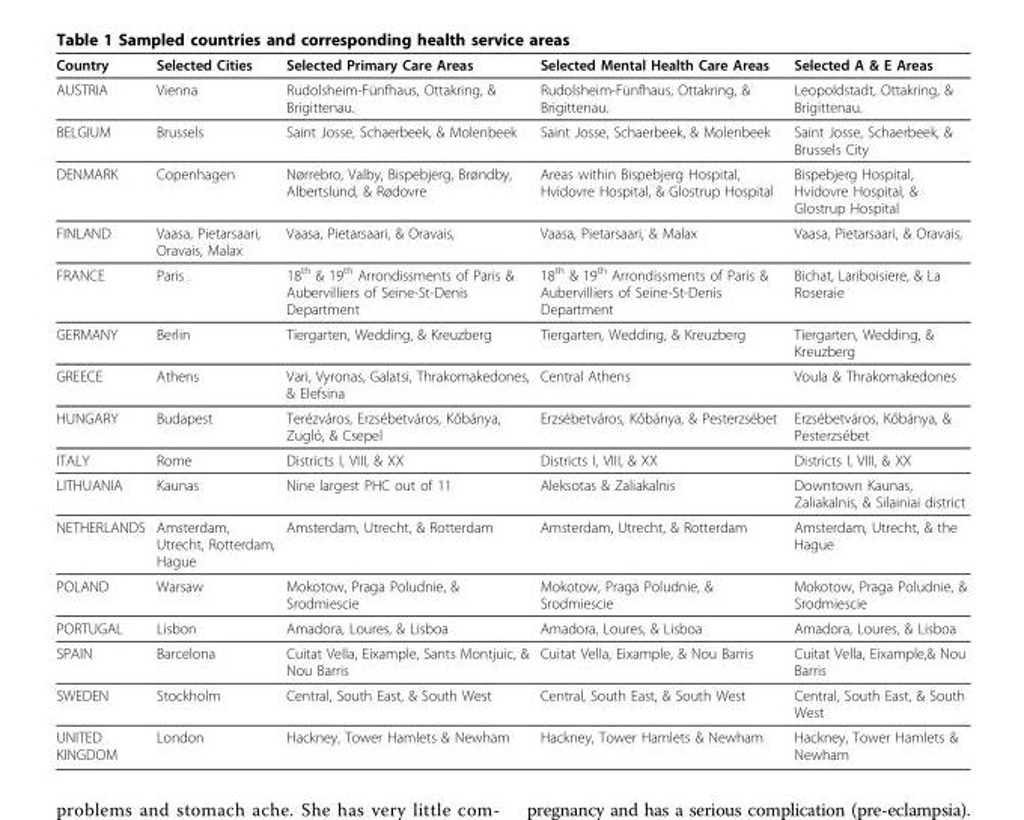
<table><thead><tr><td>Country</td><td>Selected Cities</td><td>Selected Primary Care Areas</td><td>Selected Mental Health Care Areas</td><td>Selected A &amp; E Areas</td></tr></thead><tbody><tr><td>AUSTRIA</td><td>Vienna</td><td>Rudolsheim-Fünfhaus, Ottakring, &amp; Brigittenau.</td><td>Rudolsheim-Fünfhaus, Ottakring, &amp; Brigittenau.</td><td>Leopoldstadt, Ottakring, &amp; Brigittenau.</td></tr><tr><td>BELGIUM</td><td>Brussels</td><td>Saint Josse, Schaerbeek, &amp; Molenbeek</td><td>Saint Josse, Schaerbeek, &amp; Molenbeek</td><td>Saint Josse, Schaerbeek, &amp; Brussels City</td></tr><tr><td>DENMARK</td><td>Copenhagen</td><td>Nørrebro, Valby, Bispebjerg, Brøndby, Albertslund, &amp; Rødovre</td><td>Areas within Bispebjerg Hospital, Hvidovre Hospital, &amp; Glostrup Hospital</td><td>Bispebjerg Hospital, Hvidovre Hospital, &amp; Glostrup Hospital</td></tr><tr><td>FINLAND</td><td>Vaasa, Pietarsaari, Oravais, Malax</td><td>Vaasa, Pietarsaari, &amp; Oravais,</td><td>Vaasa, Pietarsaari, &amp; Malax</td><td>Vaasa, Pietarsaari, &amp; Oravais,</td></tr><tr><td>FRANCE</td><td>Paris</td><td>18<sup>th</sup> &amp; 19<sup>th</sup> Arrondissments of Paris &amp; Aubervilliers of Seine-St-Denis Department</td><td>18<sup>th</sup> &amp; 19<sup>th</sup> Arrondissments of Paris &amp; Aubervilliers of Seine-St-Denis Department</td><td>Bichat, Lariboisiere, &amp; La Roseraie</td></tr><tr><td>GERMANY</td><td>Berlin</td><td>Tiergarten, Wedding, &amp; Kreuzberg</td><td>Tiergarten, Wedding, &amp; Kreuzberg</td><td>Tiergarten, Wedding, &amp; Kreuzberg</td></tr><tr><td>GREECE</td><td>Athens</td><td>Vari, Vyronas, Galatsi, Thrakomakedones, &amp; Elefsina</td><td>Central Athens</td><td>Voula &amp; Thrakomakedones</td></tr><tr><td>HUNGARY</td><td>Budapest</td><td>Terézváros, Erzsébetváros, Kőbánya, Zugló, &amp; Csepel</td><td>Erzsébetváros, Kőbánya, &amp; Pesterzsébet</td><td>Erzsébetváros, Kőbánya, &amp; Pesterzsébet</td></tr><tr><td>ITALY</td><td>Rome</td><td>Districts I, VIII, &amp; XX</td><td>Districts I, VIII, &amp; XX</td><td>Districts I, VIII, &amp; XX</td></tr><tr><td>LITHUANIA</td><td>Kaunas</td><td>Nine largest PHC out of 11</td><td>Aleksotas &amp; Zaliakalnis</td><td>Downtown Kaunas, Zaliakalnis, &amp; Silainiai district</td></tr><tr><td>NETHERLANDS</td><td>Amsterdam, Utrecht, Rotterdam, Hague</td><td>Amsterdam, Utrecht, &amp; Rotterdam</td><td>Amsterdam, Utrecht, &amp; Rotterdam</td><td>Amsterdam, Utrecht, &amp; the Hague</td></tr><tr><td>POLAND</td><td>Warsaw</td><td>Mokotow, Praga Poludnie, &amp; Srodmiescie</td><td>Mokotow, Praga Poludnie, &amp; Srodmiescie</td><td>Mokotow, Praga Poludnie, &amp; Srodmiescie</td></tr><tr><td>PORTUGAL</td><td>Lisbon</td><td>Amadora, Loures, &amp; Lisboa</td><td>Amadora, Loures, &amp; Lisboa</td><td>Amadora, Loures, &amp; Lisboa</td></tr><tr><td>SPAIN</td><td>Barcelona</td><td>Cuitat Vella, Eixample, Sants Montjuic, &amp; Nou Barris</td><td>Cuitat Vella, Eixample, &amp; Nou Barris</td><td>Cuitat Vella, Eixample,&amp; Nou Barris</td></tr><tr><td>SWEDEN</td><td>Stockholm</td><td>Central, South East, &amp; South West</td><td>Central, South East, &amp; South West</td><td>Central, South East, &amp; South West</td></tr><tr><td>UNITED KINGDOM</td><td>London</td><td>Hackney, Tower Hamlets &amp; Newham</td><td>Hackney, Tower Hamlets &amp; Newham</td><td>Hackney, Tower Hamlets &amp; Newham</td></tr></tbody></table>